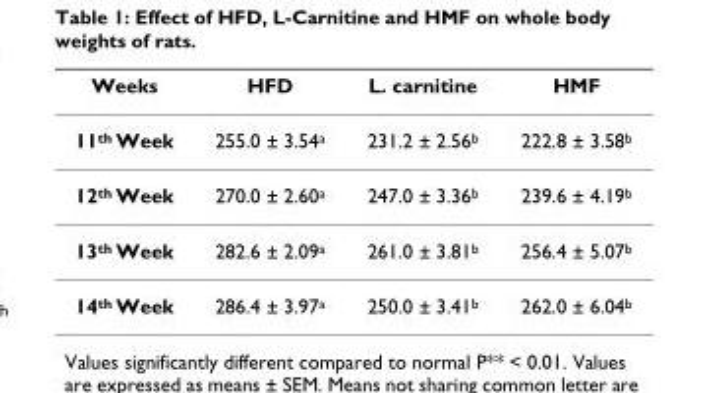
<table><thead><tr><td>Weeks</td><td>HFD</td><td>L. carnitine</td><td>HMF</td></tr></thead><tbody><tr><td>11<sup>th</sup> Week</td><td>255.0 ± 3.54<sup>a</sup></td><td>231.2 ± 2.56<sup>b</sup></td><td>222.8 ± 3.58<sup>b</sup></td></tr><tr><td>12<sup>th</sup> Week</td><td>270.0 ± 2.60<sup>a</sup></td><td>247.0 ± 3.36<sup>b</sup></td><td>239.6 ± 4.19<sup>b</sup></td></tr><tr><td>13<sup>th</sup> Week</td><td>282.6 ± 2.09<sup>a</sup></td><td>261.0 ± 3.81<sup>b</sup></td><td>256.4 ± 5.07<sup>b</sup></td></tr><tr><td>14<sup>th</sup> Week</td><td>286.4 ± 3.97<sup>a</sup></td><td>250.0 ± 3.41<sup>b</sup></td><td>262.0 ± 6.04<sup>b</sup></td></tr></tbody></table>